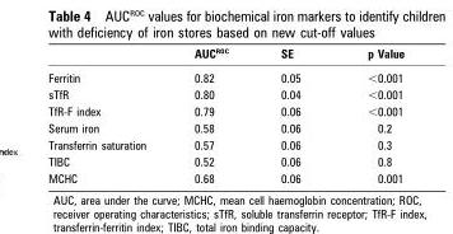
<table><thead><tr><td></td><td>AUC<sup>ROC</sup></td><td>SE</td><td>p Value</td></tr></thead><tbody><tr><td>Ferritin</td><td>0.82</td><td>0.05</td><td>&lt;0.001</td></tr><tr><td>sTfR</td><td>0.80</td><td>0.04</td><td>&lt;0.001</td></tr><tr><td>TfR-F index</td><td>0.79</td><td>0.06</td><td>&lt;0.001</td></tr><tr><td>Serum iron</td><td>0.58</td><td>0.06</td><td>0.2</td></tr><tr><td>Transferrin saturation</td><td>0.57</td><td>0.06</td><td>0.3</td></tr><tr><td>TIBC</td><td>0.52</td><td>0.06</td><td>0.8</td></tr><tr><td>MCHC</td><td>0.68</td><td>0.06</td><td>0.001</td></tr></tbody></table>